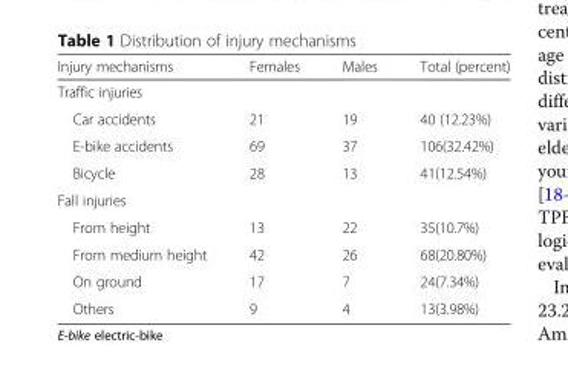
<table><thead><tr><td>Injury mechanisms</td><td>Females</td><td>Males</td><td>Total (percent)</td></tr></thead><tbody><tr><td colspan="4">Traffic injuries</td></tr><tr><td>Car accidents</td><td>21</td><td>19</td><td>40 (12.23%)</td></tr><tr><td>E-bike accidents</td><td>69</td><td>37</td><td>106(32.42%)</td></tr><tr><td>Bicycle</td><td>28</td><td>13</td><td>41(12.54%)</td></tr><tr><td colspan="4">Fall injuries</td></tr><tr><td>From height</td><td>13</td><td>22</td><td>35(10.7%)</td></tr><tr><td>From medium height</td><td>42</td><td>26</td><td>68(20.80%)</td></tr><tr><td>On ground</td><td>17</td><td>7</td><td>24(7.34%)</td></tr><tr><td>Others</td><td>9</td><td>4</td><td>13(3.98%)</td></tr></tbody></table>